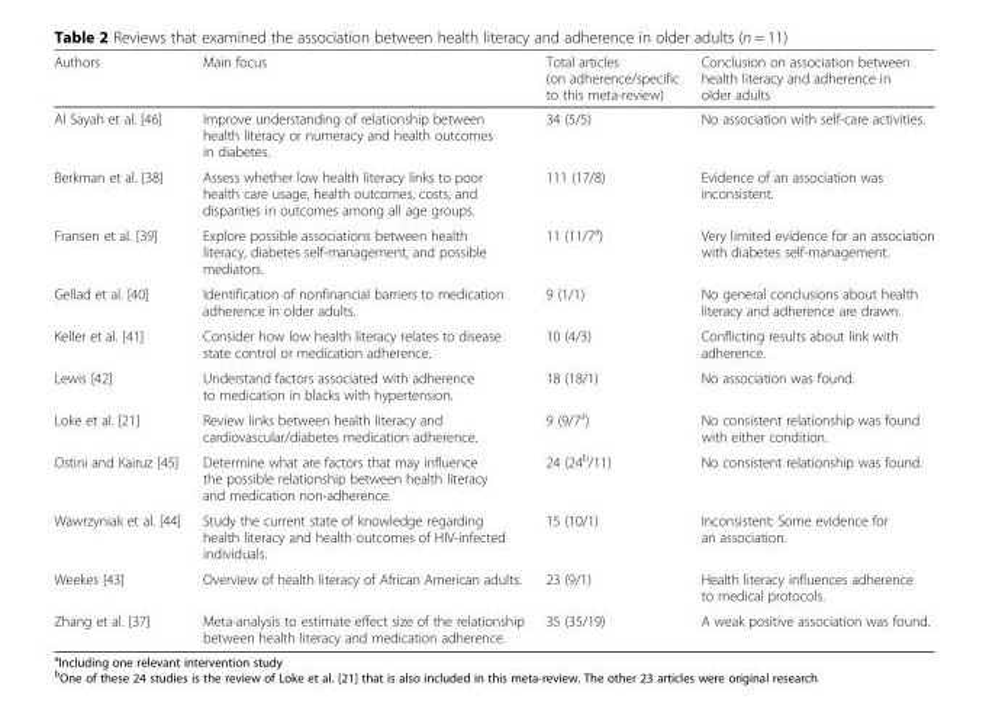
<table><thead><tr><td>Authors</td><td>Main focus</td><td>Total articles (on adherence/specific to this meta-review)</td><td>Conclusion on association between health literacy and adherence in older adults</td></tr></thead><tbody><tr><td>Al Sayah et al. [46]</td><td>Improve understanding of relationship between health literacy or numeracy and health outcomes in diabetes.</td><td>34 (5/5)</td><td>No association with self-care activities.</td></tr><tr><td>Berkman et al. [38]</td><td>Assess whether low health literacy links to poor health care usage, health outcomes, costs, and disparities in outcomes among all age groups.</td><td>111 (17/8)</td><td>Evidence of an association was inconsistent.</td></tr><tr><td>Fransen et al. [39]</td><td>Explore possible associations between health literacy, diabetes self-management, and possible mediators.</td><td>11 (11/7<sup>a</sup>)</td><td>Very limited evidence for an association with diabetes self-management.</td></tr><tr><td>Gellad et al. [40]</td><td>Identification of nonfinancial barriers to medication adherence in older adults.</td><td>9 (1/1)</td><td>No general conclusions about health literacy and adherence are drawn.</td></tr><tr><td>Keller et al. [41]</td><td>Consider how low health literacy relates to disease state control or medication adherence.</td><td>10 (4/3)</td><td>Conflicting results about link with adherence.</td></tr><tr><td>Lewis [42]</td><td>Understand factors associated with adherence to medication in blacks with hypertension.</td><td>18 (18/1)</td><td>No association was found.</td></tr><tr><td>Loke et al. [21]</td><td>Review links between health literacy and cardiovascular/diabetes medication adherence.</td><td>9 (9/7<sup>a</sup>)</td><td>No consistent relationship was found with either condition.</td></tr><tr><td>Ostini and Kairuz [45]</td><td>Determine what are factors that may influence the possible relationship between health literacy and medication non-adherence.</td><td>24 (24<sup>b</sup>/11)</td><td>No consistent relationship was found.</td></tr><tr><td>Wawrzyniak et al. [44]</td><td>Study the current state of knowledge regarding health literacy and health outcomes of HIV-infected individuals.</td><td>15 (10/1)</td><td>Inconsistent: Some evidence for an association.</td></tr><tr><td>Weekes [43]</td><td>Overview of health literacy of African American adults.</td><td>23 (9/1)</td><td>Health literacy influences adherence to medical protocols.</td></tr><tr><td>Zhang et al. [37]</td><td>Meta-analysis to estimate effect size of the relationship between health literacy and medication adherence.</td><td>35 (35/19)</td><td>A weak positive association was found.</td></tr></tbody></table>